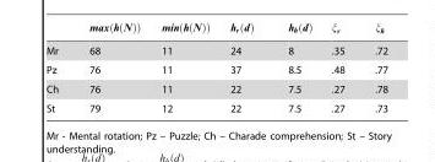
<table><tbody><tr><td>Mr</td><td>68</td><td>11</td><td>24</td><td>8</td><td>.35</td><td>.72</td></tr><tr><td>Pz</td><td>76</td><td>11</td><td>37</td><td>8.5</td><td>.48</td><td>.77</td></tr><tr><td>Ch</td><td>76</td><td>11</td><td>22</td><td>7.5</td><td>.27</td><td>.78</td></tr><tr><td>St</td><td>79</td><td>12</td><td>22</td><td>7.5</td><td>.27</td><td>.73</td></tr></tbody></table>